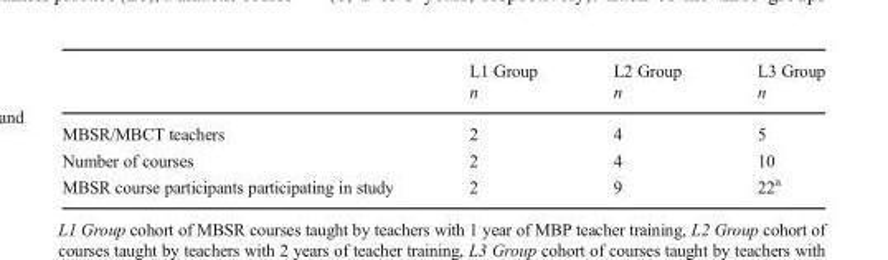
<table><thead><tr><td rowspan="2"></td><td rowspan="2">L1 Group n</td><td rowspan="2">L2 Group n</td><td rowspan="2">L3 Group n</td></tr><tr></tr></thead><tbody><tr><td>MBSR/MBCT teachers</td><td>2</td><td>4</td><td>5</td></tr><tr><td>Number of courses</td><td>2</td><td>4</td><td>10</td></tr><tr><td>MBSR course participants participating in study</td><td>2</td><td>9</td><td>22<sup>a</sup></td></tr></tbody></table>